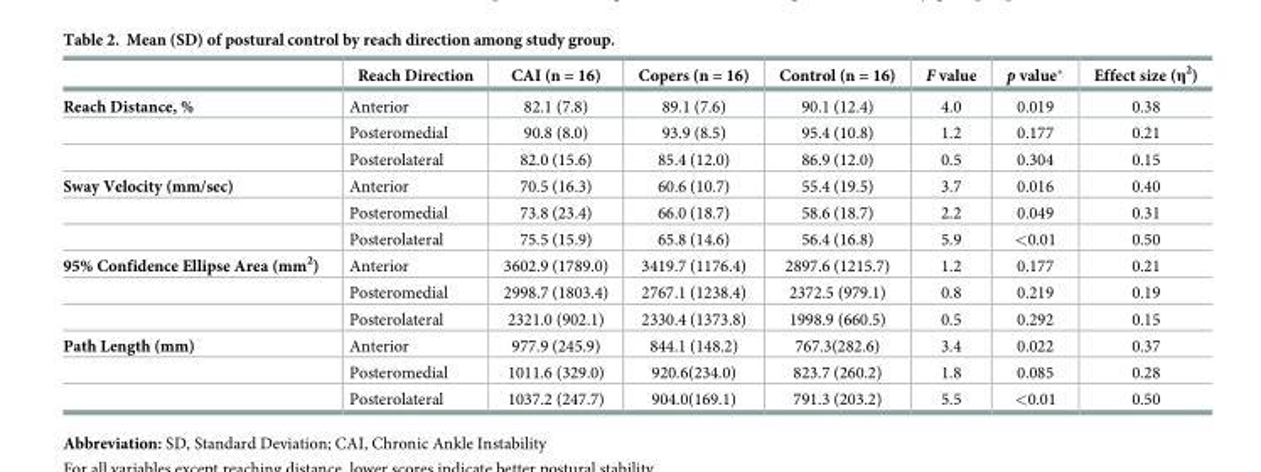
<table><thead><tr><td></td><td>Reach Direction</td><td>CAI (n = 16)</td><td>Copers (n = 16)</td><td>Control (n = 16)</td><td>F value</td><td>p value*</td><td>Effect size (η<sup>2</sup>)</td></tr></thead><tbody><tr><td rowspan="3">Reach Distance, %</td><td>Anterior</td><td>82.1 (7.8)</td><td>89.1 (7.6)</td><td>90.1 (12.4)</td><td>4.0</td><td>0.019</td><td>0.38</td></tr><tr><td>Posteromedial</td><td>90.8 (8.0)</td><td>93.9 (8.5)</td><td>95.4 (10.8)</td><td>1.2</td><td>0.177</td><td>0.21</td></tr><tr><td>Posterolateral</td><td>82.0 (15.6)</td><td>85.4 (12.0)</td><td>86.9 (12.0)</td><td>0.5</td><td>0.304</td><td>0.15</td></tr><tr><td rowspan="3">Sway Velocity (mm/sec)</td><td>Anterior</td><td>70.5 (16.3)</td><td>60.6 (10.7)</td><td>55.4 (19.5)</td><td>3.7</td><td>0.016</td><td>0.40</td></tr><tr><td>Posteromedial</td><td>73.8 (23.4)</td><td>66.0 (18.7)</td><td>58.6 (18.7)</td><td>2.2</td><td>0.049</td><td>0.31</td></tr><tr><td>Posterolateral</td><td>75.5 (15.9)</td><td>65.8 (14.6)</td><td>56.4 (16.8)</td><td>5.9</td><td>&lt;0.01</td><td>0.50</td></tr><tr><td rowspan="3">95% Confidence Ellipse Area (mm<sup>2</sup>)</td><td>Anterior</td><td>3602.9 (1789.0)</td><td>3419.7 (1176.4)</td><td>2897.6 (1215.7)</td><td>1.2</td><td>0.177</td><td>0.21</td></tr><tr><td>Posteromedial</td><td>2998.7 (1803.4)</td><td>2767.1 (1238.4)</td><td>2372.5 (979.1)</td><td>0.8</td><td>0.219</td><td>0.19</td></tr><tr><td>Posterolateral</td><td>2321.0 (902.1)</td><td>2330.4 (1373.8)</td><td>1998.9 (660.5)</td><td>0.5</td><td>0.292</td><td>0.15</td></tr><tr><td rowspan="3">Path Length (mm)</td><td>Anterior</td><td>977.9 (245.9)</td><td>844.1 (148.2)</td><td>767.3(282.6)</td><td>3.4</td><td>0.022</td><td>0.37</td></tr><tr><td>Posteromedial</td><td>1011.6 (329.0)</td><td>920.6(234.0)</td><td>823.7 (260.2)</td><td>1.8</td><td>0.085</td><td>0.28</td></tr><tr><td>Posterolateral</td><td>1037.2 (247.7)</td><td>904.0(169.1)</td><td>791.3 (203.2)</td><td>5.5</td><td>&lt;0.01</td><td>0.50</td></tr></tbody></table>